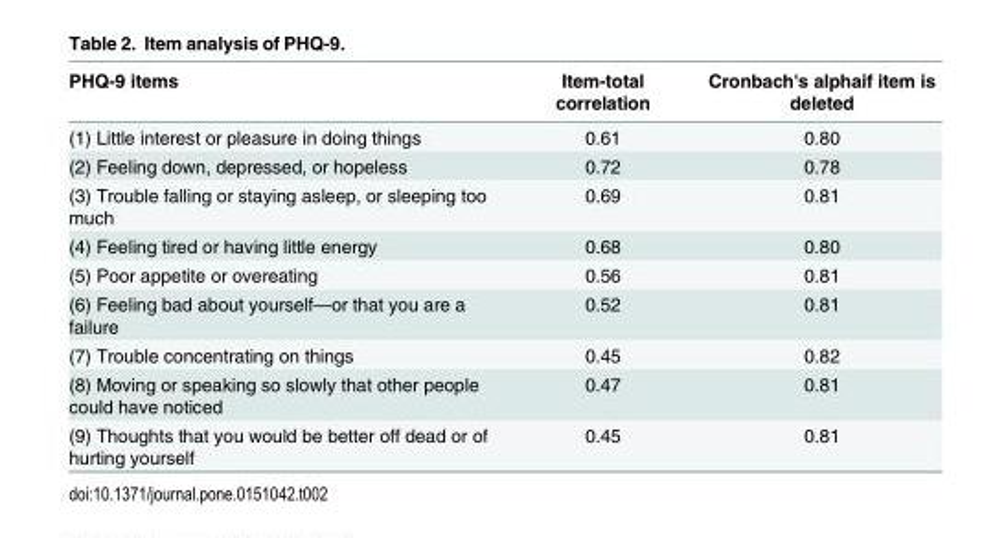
<table><thead><tr><td>PHQ-9 items</td><td>Item-total correlation</td><td>Cronbach&#x27;s alphaif item is deleted</td></tr></thead><tbody><tr><td>(1) Little interest or pleasure in doing things</td><td>0.61</td><td>0.80</td></tr><tr><td>(2) Feeling down, depressed, or hopeless</td><td>0.72</td><td>0.78</td></tr><tr><td>(3) Trouble falling or staying asleep, or sleeping too much</td><td>0.69</td><td>0.81</td></tr><tr><td>(4) Feeling tired or having little energy</td><td>0.68</td><td>0.80</td></tr><tr><td>(5) Poor appetite or overeating</td><td>0.56</td><td>0.81</td></tr><tr><td>(6) Feeling bad about yourself—or that you are a failure</td><td>0.52</td><td>0.81</td></tr><tr><td>(7) Trouble concentrating on things</td><td>0.45</td><td>0.82</td></tr><tr><td>(8) Moving or speaking so slowly that other people could have noticed</td><td>0.47</td><td>0.81</td></tr><tr><td>(9) Thoughts that you would be better off dead or of hurting yourself</td><td>0.45</td><td>0.81</td></tr></tbody></table>